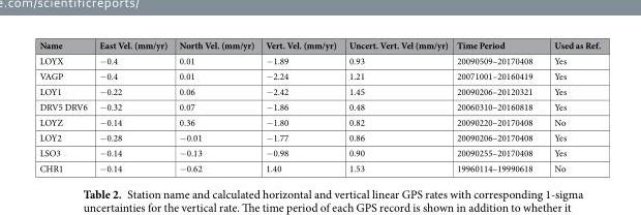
<table><thead><tr><td>Name</td><td>East Vel. (mm/yr)</td><td>North Vel. (mm/yr)</td><td>Vert. Vel. (mm/yr)</td><td>Uncert. Vert. Vel (mm/yr)</td><td>Time Period</td><td>Used as Ref.</td></tr></thead><tbody><tr><td>LOYX</td><td>−0.4</td><td>0.01</td><td>−1.89</td><td>0.93</td><td>20090509–20170408</td><td>Yes</td></tr><tr><td>VAGP</td><td>−0.4</td><td>0.01</td><td>−2.24</td><td>1.21</td><td>20071001–20160419</td><td>Yes</td></tr><tr><td>LOY1</td><td>−0.22</td><td>0.06</td><td>−2.42</td><td>1.45</td><td>20090206–20120321</td><td>Yes</td></tr><tr><td>DRV5 DRV6</td><td>−0.32</td><td>0.07</td><td>−1.86</td><td>0.48</td><td>20060310–20160818</td><td>Yes</td></tr><tr><td>LOYZ</td><td>−0.14</td><td>0.36</td><td>−1.80</td><td>0.82</td><td>20090220–20170408</td><td>No</td></tr><tr><td>LOY2</td><td>−0.28</td><td>−0.01</td><td>−1.77</td><td>0.86</td><td>20090206–20170408</td><td>Yes</td></tr><tr><td>LSO3</td><td>−0.14</td><td>−0.13</td><td>−0.98</td><td>0.90</td><td>20090255–20170408</td><td>Yes</td></tr><tr><td>CHR1</td><td>−0.14</td><td>−0.62</td><td>1.40</td><td>1.53</td><td>19960114–19990618</td><td>No</td></tr></tbody></table>